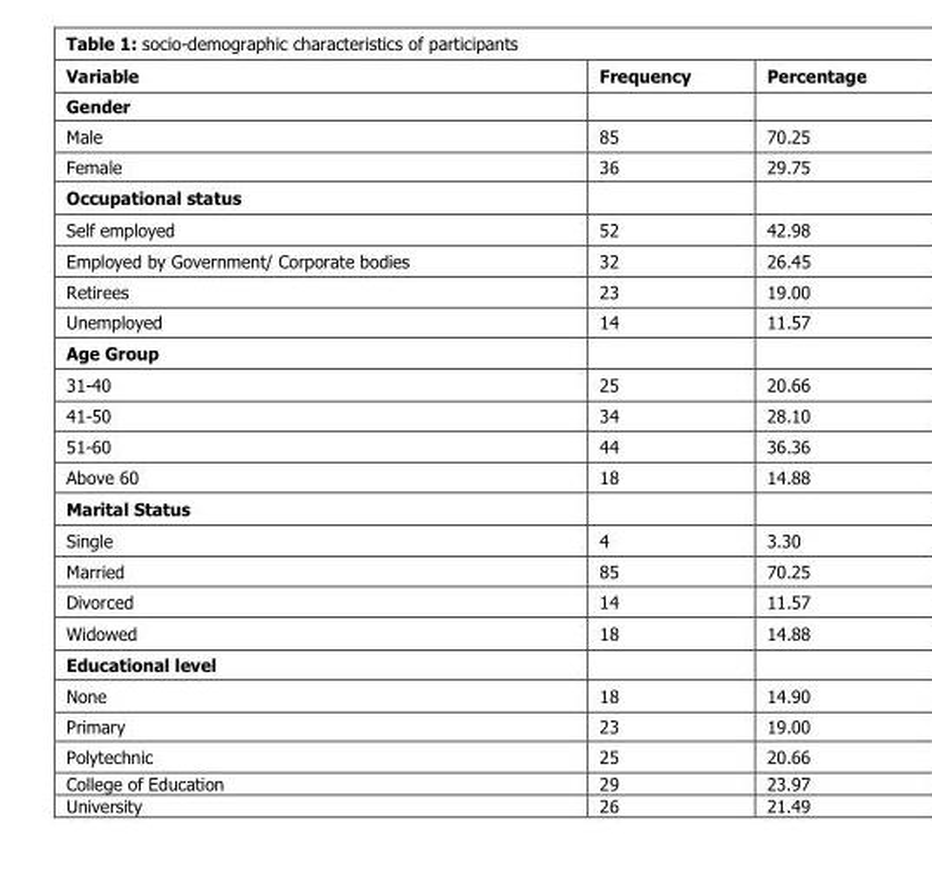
<table><thead><tr><td>Variable</td><td>Frequency</td><td>Percentage</td></tr></thead><tbody><tr><td colspan="3">Gender</td></tr><tr><td>Male</td><td>85</td><td>70.25</td></tr><tr><td>Female</td><td>36</td><td>29.75</td></tr><tr><td colspan="3">Occupational status</td></tr><tr><td>Self employed</td><td>52</td><td>42.98</td></tr><tr><td>Employed by Government/ Corporate bodies</td><td>32</td><td>26.45</td></tr><tr><td>Retirees</td><td>23</td><td>19.00</td></tr><tr><td>Unemployed</td><td>14</td><td>11.57</td></tr><tr><td colspan="3">Age Group</td></tr><tr><td>31-40</td><td>25</td><td>20.66</td></tr><tr><td>41-50</td><td>34</td><td>28.10</td></tr><tr><td>51-60</td><td>44</td><td>36.36</td></tr><tr><td>Above 60</td><td>18</td><td>14.88</td></tr><tr><td colspan="3">Marital Status</td></tr><tr><td>Single</td><td>4</td><td>3.30</td></tr><tr><td>Married</td><td>85</td><td>70.25</td></tr><tr><td>Divorced</td><td>14</td><td>11.57</td></tr><tr><td>Widowed</td><td>18</td><td>14.88</td></tr><tr><td colspan="3">Educational level</td></tr><tr><td>None</td><td>18</td><td>14.90</td></tr><tr><td>Primary</td><td>23</td><td>19.00</td></tr><tr><td>Polytechnic</td><td>25</td><td>20.66</td></tr><tr><td>College of Education</td><td>29</td><td>23.97</td></tr><tr><td>University</td><td>26</td><td>21.49</td></tr></tbody></table>